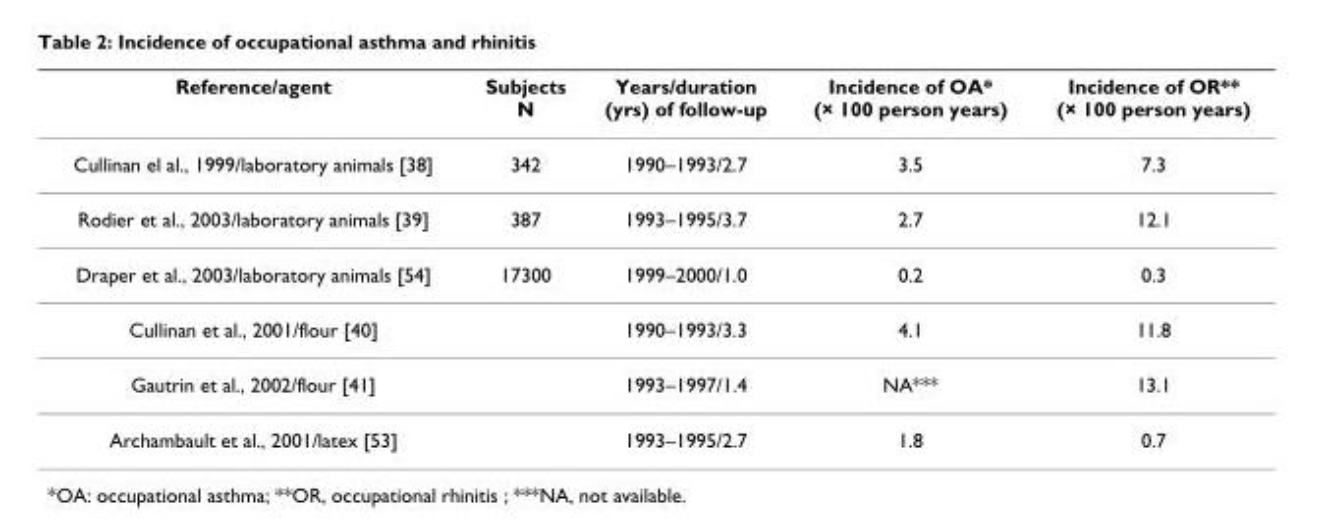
<table><thead><tr><td>Reference/agent</td><td>Subjects N</td><td>Years/duration (yrs) of follow-up</td><td>Incidence of OA* (× 100 person years)</td><td>Incidence of OR** (× 100 person years)</td></tr></thead><tbody><tr><td>Cullinan el al., 1999/laboratory animals [38]</td><td>342</td><td>1990–1993/2.7</td><td>3.5</td><td>7.3</td></tr><tr><td>Rodier et al., 2003/laboratory animals [39]</td><td>387</td><td>1993–1995/3.7</td><td>2.7</td><td>12.1</td></tr><tr><td>Draper et al., 2003/laboratory animals [54]</td><td>17300</td><td>1999–2000/1.0</td><td>0.2</td><td>0.3</td></tr><tr><td>Cullinan et al., 2001/flour [40]</td><td></td><td>1990–1993/3.3</td><td>4.1</td><td>11.8</td></tr><tr><td>Gautrin et al., 2002/flour [41]</td><td></td><td>1993–1997/1.4</td><td>NA***</td><td>13.1</td></tr><tr><td>Archambault et al., 2001/latex [53]</td><td></td><td>1993–1995/2.7</td><td>1.8</td><td>0.7</td></tr></tbody></table>